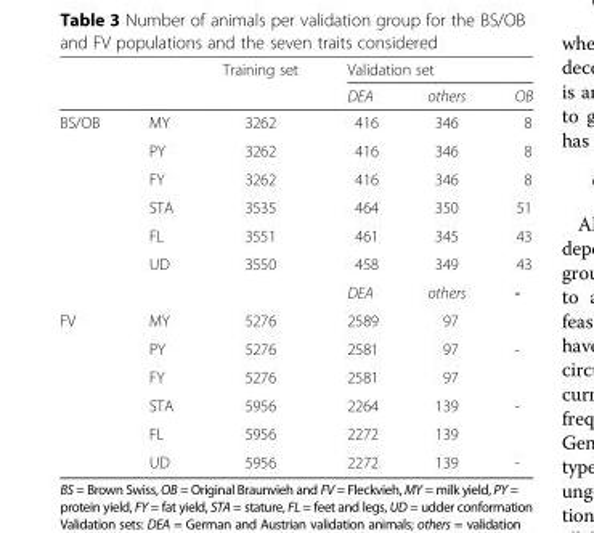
<table><thead><tr><td rowspan="2"></td><td rowspan="2"></td><td rowspan="2">Training set</td><td colspan="3">Validation set</td></tr><tr><td>DEA</td><td>others</td><td>OB</td></tr></thead><tbody><tr><td rowspan="7">BS/OB</td><td>MY</td><td>3262</td><td>416</td><td>346</td><td>8</td></tr><tr><td>PY</td><td>3262</td><td>416</td><td>346</td><td>8</td></tr><tr><td>FY</td><td>3262</td><td>416</td><td>346</td><td>8</td></tr><tr><td>STA</td><td>3535</td><td>464</td><td>350</td><td>51</td></tr><tr><td>FL</td><td>3551</td><td>461</td><td>345</td><td>43</td></tr><tr><td>UD</td><td>3550</td><td>458</td><td>349</td><td>43</td></tr><tr><td></td><td></td><td>DEA</td><td>others</td><td>-</td></tr><tr><td rowspan="6">FV</td><td>MY</td><td>5276</td><td>2589</td><td>97</td><td></td></tr><tr><td>PY</td><td>5276</td><td>2581</td><td>97</td><td>-</td></tr><tr><td>FY</td><td>5276</td><td>2581</td><td>97</td><td></td></tr><tr><td>STA</td><td>5956</td><td>2264</td><td>139</td><td>-</td></tr><tr><td>FL</td><td>5956</td><td>2272</td><td>139</td><td></td></tr><tr><td>UD</td><td>5956</td><td>2272</td><td>139</td><td>-</td></tr></tbody></table>